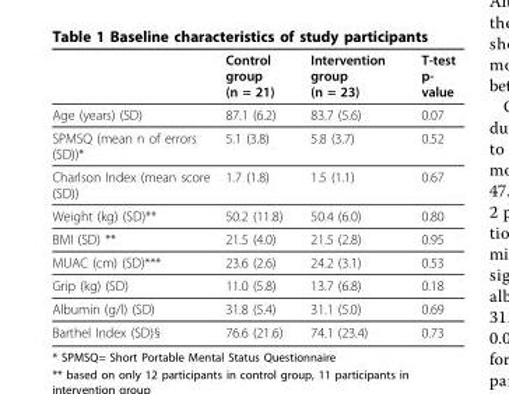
<table><thead><tr><td></td><td>Control group (n = 21)</td><td>Intervention group (n = 23)</td><td>T-test p- value</td></tr></thead><tbody><tr><td>Age (years) (SD)</td><td>87.1 (6.2)</td><td>83.7 (5.6)</td><td>0.07</td></tr><tr><td>SPMSQ (mean n of errors (SD))*</td><td>5.1 (3.8)</td><td>5.8 (3.7)</td><td>0.52</td></tr><tr><td>Charlson Index (mean score (SD))</td><td>1.7 (1.8)</td><td>1.5 (1.1)</td><td>0.67</td></tr><tr><td>Weight (kg) (SD)**</td><td>50.2 (11.8)</td><td>50.4 (6.0)</td><td>0.80</td></tr><tr><td>BMI (SD) **</td><td>21.5 (4.0)</td><td>21.5 (2.8)</td><td>0.95</td></tr><tr><td>MUAC (cm) (SD)***</td><td>23.6 (2.6)</td><td>24.2 (3.1)</td><td>0.53</td></tr><tr><td>Grip (kg) (SD)</td><td>11.0 (5.8)</td><td>13.7 (6.8)</td><td>0.18</td></tr><tr><td>Albumin (g/l) (SD)</td><td>31.8 (5.4)</td><td>31.1 (5.0)</td><td>0.69</td></tr><tr><td>Barthel Index (SD)§</td><td>76.6 (21.6)</td><td>74.1 (23.4)</td><td>0.73</td></tr></tbody></table>